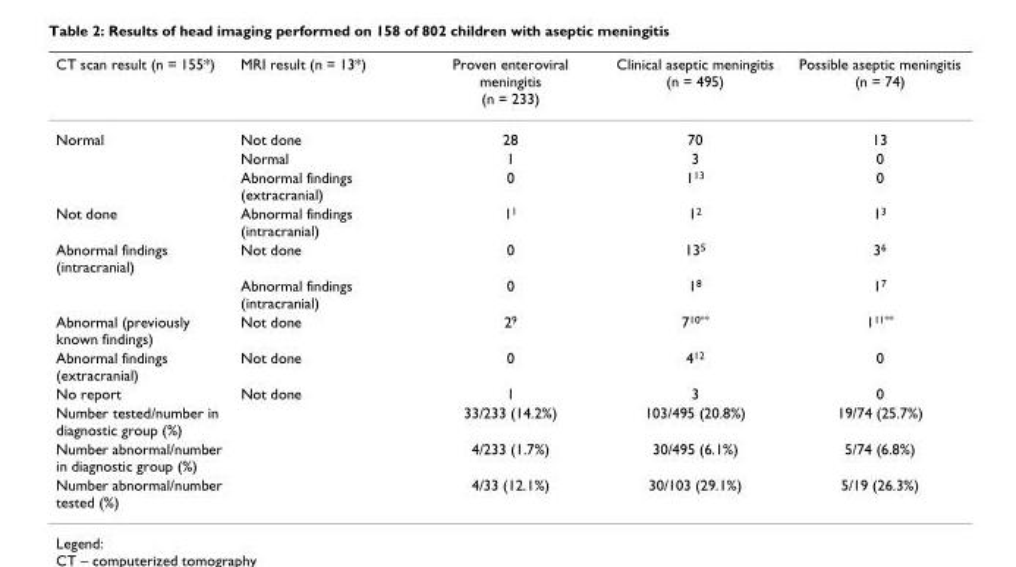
<table><thead><tr><td>CT scan result (n = 155*)</td><td>MRI result (n = 13*)</td><td>Proven enteroviral meningitis (n = 233)</td><td>Clinical aseptic meningitis (n = 495)</td><td>Possible aseptic meningitis (n = 74)</td></tr></thead><tbody><tr><td rowspan="3">Normal</td><td>Not done</td><td>28</td><td>70</td><td>13</td></tr><tr><td>Normal</td><td>1</td><td>3</td><td>0</td></tr><tr><td>Abnormal findings (extracranial)</td><td>0</td><td>1<sup>13</sup></td><td>0</td></tr><tr><td>Not done</td><td>Abnormal findings (intracranial)</td><td>1<sup>1</sup></td><td>1<sup>2</sup></td><td>1<sup>3</sup></td></tr><tr><td rowspan="2">Abnormal findings (intracranial)</td><td>Not done</td><td>0</td><td>13<sup>5</sup></td><td>3<sup>6</sup></td></tr><tr><td>Abnormal findings (intracranial)</td><td>0</td><td>1<sup>8</sup></td><td>1<sup>7</sup></td></tr><tr><td>Abnormal (previously known findings)</td><td>Not done</td><td>2<sup>9</sup></td><td>7<sup>10**</sup></td><td>1<sup>11**</sup></td></tr><tr><td>Abnormal findings (extracranial)</td><td>Not done</td><td>0</td><td>4<sup>12</sup></td><td>0</td></tr><tr><td>No report</td><td>Not done</td><td>1</td><td>3</td><td>0</td></tr><tr><td>Number tested/number in diagnostic group (%)</td><td></td><td>33/233 (14.2%)</td><td>103/495 (20.8%)</td><td>19/74 (25.7%)</td></tr><tr><td>Number abnormal/number in diagnostic group (%)</td><td></td><td>4/233 (1.7%)</td><td>30/495 (6.1%)</td><td>5/74 (6.8%)</td></tr><tr><td>Number abnormal/number tested (%)</td><td></td><td>4/33 (12.1%)</td><td>30/103 (29.1%)</td><td>5/19 (26.3%)</td></tr></tbody></table>